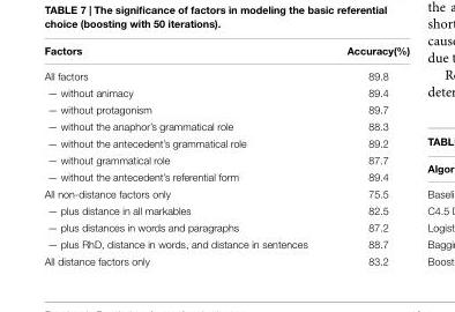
<table><thead><tr><td>Factors</td><td>Accuracy(%)</td></tr></thead><tbody><tr><td>All factors</td><td>89.8</td></tr><tr><td>— without animacy</td><td>89.4</td></tr><tr><td>— without protagonism</td><td>89.7</td></tr><tr><td>— without the anaphor’s grammatical role</td><td>88.3</td></tr><tr><td>— without the antecedent’s grammatical role</td><td>89.2</td></tr><tr><td>— without grammatical role</td><td>87.7</td></tr><tr><td>— without the antecedent’s referential form</td><td>89.4</td></tr><tr><td>All non-distance factors only</td><td>75.5</td></tr><tr><td>— plus distance in all markables</td><td>82.5</td></tr><tr><td>— plus distances in words and paragraphs</td><td>87.2</td></tr><tr><td>— plus RhD, distance in words, and distance in sentences</td><td>88.7</td></tr><tr><td>All distance factors only</td><td>83.2</td></tr></tbody></table>